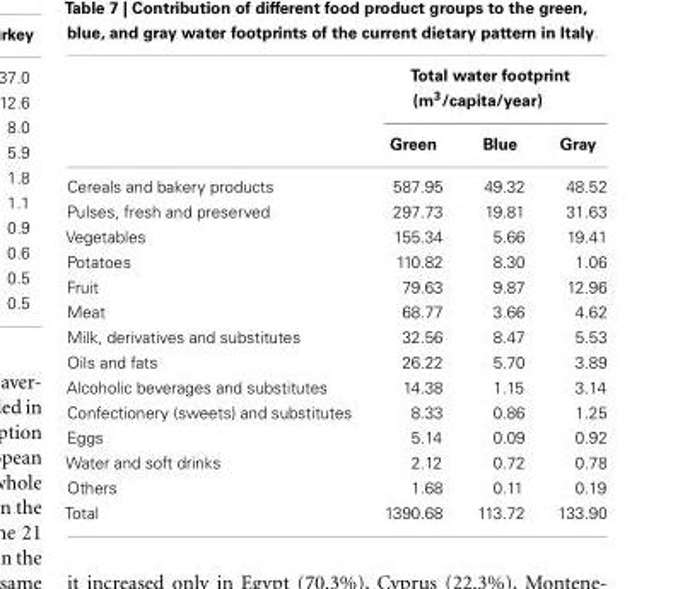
<table><thead><tr><td rowspan="2"></td><td colspan="3">Total water footprint (m<sup>3</sup>/capita/year)</td></tr><tr><td>Green</td><td>Blue</td><td>Gray</td></tr></thead><tbody><tr><td>Cereals and bakery products</td><td>587.95</td><td>49.32</td><td>48.52</td></tr><tr><td>Pulses, fresh and preserved</td><td>297.73</td><td>19.81</td><td>31.63</td></tr><tr><td>Vegetables</td><td>155.34</td><td>5.66</td><td>19.41</td></tr><tr><td>Potatoes</td><td>110.82</td><td>8.30</td><td>1.06</td></tr><tr><td>Fruit</td><td>79.63</td><td>9.87</td><td>12.96</td></tr><tr><td>Meat</td><td>68.77</td><td>3.66</td><td>4.62</td></tr><tr><td>Milk, derivatives and substitutes</td><td>32.56</td><td>8.47</td><td>5.53</td></tr><tr><td>Oils and fats</td><td>26.22</td><td>5.70</td><td>3.89</td></tr><tr><td>Alcoholic beverages and substitutes</td><td>14.38</td><td>1.15</td><td>3.14</td></tr><tr><td>Confectionery (sweets) and substitutes</td><td>8.33</td><td>0.86</td><td>1.25</td></tr><tr><td>Eggs</td><td>5.14</td><td>0.09</td><td>0.92</td></tr><tr><td>Water and soft drinks</td><td>2.12</td><td>0.72</td><td>0.78</td></tr><tr><td>Others</td><td>1.68</td><td>0.11</td><td>0.19</td></tr><tr><td>Total</td><td>1390.68</td><td>113.72</td><td>133.90</td></tr></tbody></table>